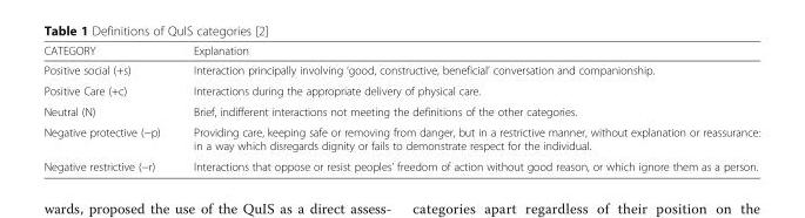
<table><thead><tr><td>CATEGORY</td><td>Explanation</td></tr></thead><tbody><tr><td>Positive social (+s)</td><td>Interaction principally involving ‘good, constructive, beneficial’ conversation and companionship.</td></tr><tr><td>Positive Care (+c)</td><td>Interactions during the appropriate delivery of physical care.</td></tr><tr><td>Neutral (N)</td><td>Brief, indifferent interactions not meeting the definitions of the other categories.</td></tr><tr><td>Negative protective (−p)</td><td>Providing care, keeping safe or removing from danger, but in a restrictive manner, without explanation or reassurance: in a way which disregards dignity or fails to demonstrate respect for the individual.</td></tr><tr><td>Negative restrictive (−r)</td><td>Interactions that oppose or resist peoples’ freedom of action without good reason, or which ignore them as a person.</td></tr></tbody></table>